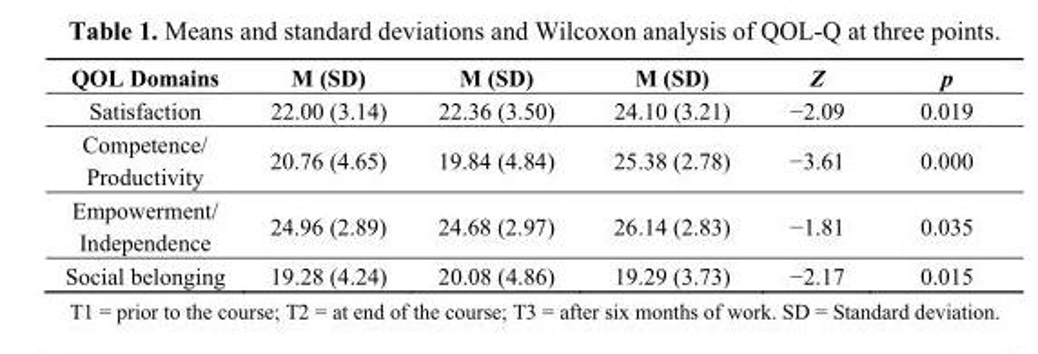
<table><thead><tr><td>QOL Domains</td><td>M (SD)</td><td>M (SD)</td><td>M (SD)</td><td>Z</td><td>p</td></tr></thead><tbody><tr><td>Satisfaction</td><td>22.00 (3.14)</td><td>22.36 (3.50)</td><td>24.10 (3.21)</td><td>−2.09</td><td>0.019</td></tr><tr><td>Competence/ Productivity</td><td>20.76 (4.65)</td><td>19.84 (4.84)</td><td>25.38 (2.78)</td><td>−3.61</td><td>0.000</td></tr><tr><td>Empowerment/ Independence</td><td>24.96 (2.89)</td><td>24.68 (2.97)</td><td>26.14 (2.83)</td><td>−1.81</td><td>0.035</td></tr><tr><td>Social belonging</td><td>19.28 (4.24)</td><td>20.08 (4.86)</td><td>19.29 (3.73)</td><td>−2.17</td><td>0.015</td></tr></tbody></table>